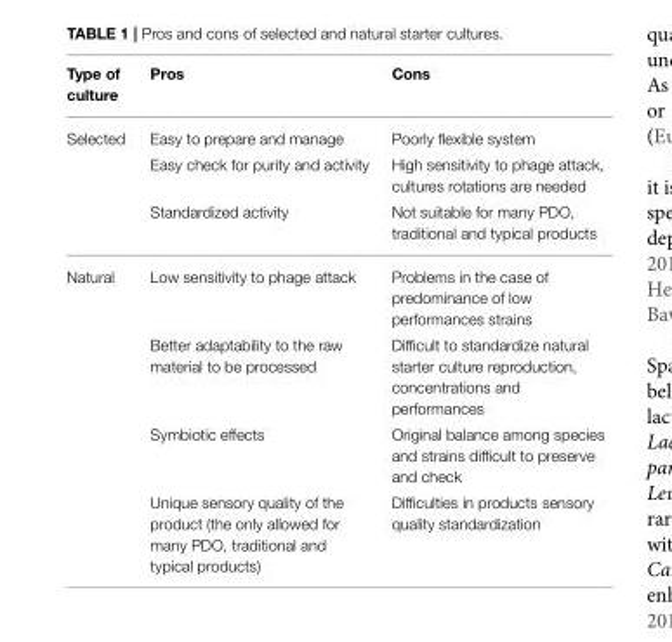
<table><thead><tr><td>Type of culture</td><td>Pros</td><td>Cons</td></tr></thead><tbody><tr><td rowspan="3">Selected</td><td>Easy to prepare and manage</td><td>Poorly flexible system</td></tr><tr><td>Easy check for purity and activity</td><td>High sensitivity to phage attack, cultures rotations are needed</td></tr><tr><td>Standardized activity</td><td>Not suitable for many PDO, traditional and typical products</td></tr><tr><td rowspan="4">Natural</td><td>Low sensitivity to phage attack</td><td>Problems in the case of predominance of low performances strains</td></tr><tr><td>Better adaptability to the raw material to be processed</td><td>Difficult to standardize natural starter culture reproduction, concentrations and performances</td></tr><tr><td>Symbiotic effects</td><td>Original balance among species and strains difficult to preserve and check</td></tr><tr><td>Unique sensory quality of the product (the only allowed for many PDO, traditional and typical products)</td><td>Difficulties in products sensory quality standardization</td></tr></tbody></table>